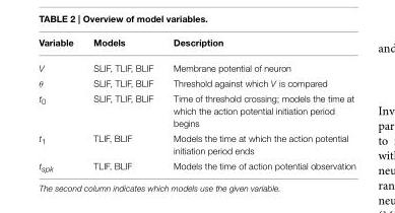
<table><thead><tr><td>Variable</td><td>Models</td><td>Description</td></tr></thead><tbody><tr><td>V</td><td>SLIF, TLIF, BLIF</td><td>Membrane potential of neuron</td></tr><tr><td>θ</td><td>SLIF, TLIF, BLIF</td><td>Threshold against which V is compared</td></tr><tr><td>t<sub>0</sub></td><td>SLIF, TLIF, BLIF</td><td>Time of threshold crossing; models the time at which the action potential initiation period begins</td></tr><tr><td>t<sub>1</sub></td><td>TLIF, BLIF</td><td>Models the time at which the action potential initiation period ends</td></tr><tr><td>t<sub>spk</sub></td><td>TLIF, BLIF</td><td>Models the time of action potential observation</td></tr></tbody></table>